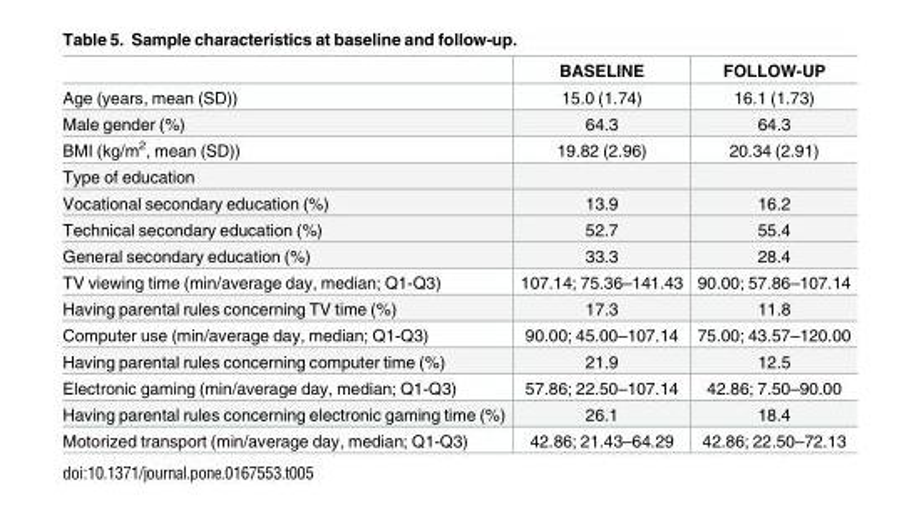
<table><thead><tr><td></td><td>BASELINE</td><td>FOLLOW-UP</td></tr></thead><tbody><tr><td>Age (years, mean (SD))</td><td>15.0 (1.74)</td><td>16.1 (1.73)</td></tr><tr><td>Male gender (%)</td><td>64.3</td><td>64.3</td></tr><tr><td>BMI (kg/m<sup>2</sup>, mean (SD))</td><td>19.82 (2.96)</td><td>20.34 (2.91)</td></tr><tr><td colspan="3">Type of education</td></tr><tr><td>Vocational secondary education (%)</td><td>13.9</td><td>16.2</td></tr><tr><td>Technical secondary education (%)</td><td>52.7</td><td>55.4</td></tr><tr><td>General secondary education (%)</td><td>33.3</td><td>28.4</td></tr><tr><td>TV viewing time (min/average day, median; Q1-Q3)</td><td>107.14; 75.36–141.43</td><td>90.00; 57.86–107.14</td></tr><tr><td>Having parental rules concerning TV time (%)</td><td>17.3</td><td>11.8</td></tr><tr><td>Computer use (min/average day, median; Q1-Q3)</td><td>90.00; 45.00–107.14</td><td>75.00; 43.57–120.00</td></tr><tr><td>Having parental rules concerning computer time (%)</td><td>21.9</td><td>12.5</td></tr><tr><td>Electronic gaming (min/average day, median; Q1-Q3)</td><td>57.86; 22.50–107.14</td><td>42.86; 7.50–90.00</td></tr><tr><td>Having parental rules concerning electronic gaming time (%)</td><td>26.1</td><td>18.4</td></tr><tr><td>Motorized transport (min/average day, median; Q1-Q3)</td><td>42.86; 21.43–64.29</td><td>42.86; 22.50–72.13</td></tr></tbody></table>